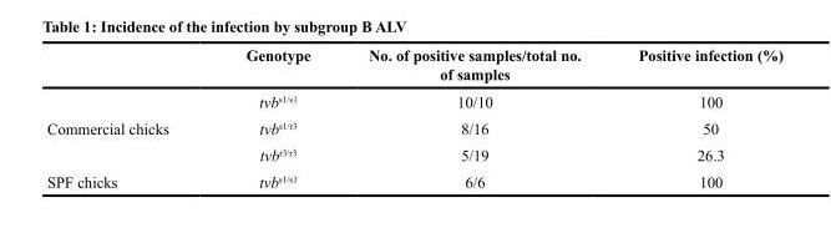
<table><thead><tr><td></td><td>Genotype</td><td>No. of positive samples/total no. of samples</td><td>Positive infection (%)</td></tr></thead><tbody><tr><td rowspan="3">Commercial chicks</td><td>tvb<sup>s1/s1</sup></td><td>10/10</td><td>100</td></tr><tr><td>tvb<sup>s1/r3</sup></td><td>8/16</td><td>50</td></tr><tr><td>tvb<sup>r3/r3</sup></td><td>5/19</td><td>26.3</td></tr><tr><td>SPF chicks</td><td>tvb<sup>s1/s1</sup></td><td>6/6</td><td>100</td></tr></tbody></table>